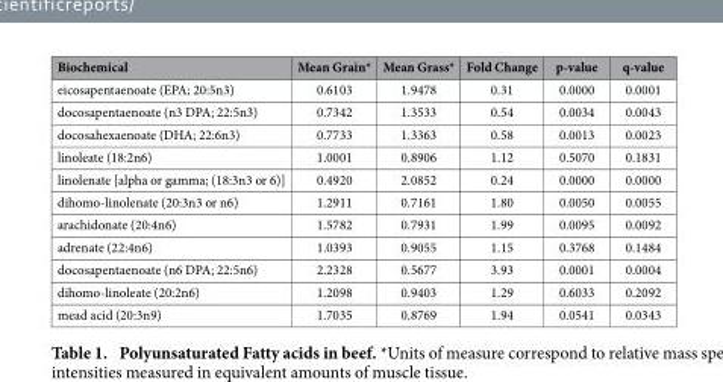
<table><thead><tr><td>Biochemical</td><td>Mean Grain*</td><td>Mean Grass*</td><td>Fold Change</td><td>p-value</td><td>q-value</td></tr></thead><tbody><tr><td>eicosapentaenoate (EPA; 20:5n3)</td><td>0.6103</td><td>1.9478</td><td>0.31</td><td>0.0000</td><td>0.0001</td></tr><tr><td>docosapentaenoate (n3 DPA; 22:5n3)</td><td>0.7342</td><td>1.3533</td><td>0.54</td><td>0.0034</td><td>0.0043</td></tr><tr><td>docosahexaenoate (DHA; 22:6n3)</td><td>0.7733</td><td>1.3363</td><td>0.58</td><td>0.0013</td><td>0.0023</td></tr><tr><td>linoleate (18:2n6)</td><td>1.0001</td><td>0.8906</td><td>1.12</td><td>0.5070</td><td>0.1831</td></tr><tr><td>linolenate [alpha or gamma; (18:3n3 or 6)]</td><td>0.4920</td><td>2.0852</td><td>0.24</td><td>0.0000</td><td>0.0000</td></tr><tr><td>dihomo-linolenate (20:3n3 or n6)</td><td>1.2911</td><td>0.7161</td><td>1.80</td><td>0.0050</td><td>0.0055</td></tr><tr><td>arachidonate (20:4n6)</td><td>1.5782</td><td>0.7931</td><td>1.99</td><td>0.0095</td><td>0.0092</td></tr><tr><td>adrenate (22:4n6)</td><td>1.0393</td><td>0.9055</td><td>1.15</td><td>0.3768</td><td>0.1484</td></tr><tr><td>docosapentaenoate (n6 DPA; 22:5n6)</td><td>2.2328</td><td>0.5677</td><td>3.93</td><td>0.0001</td><td>0.0004</td></tr><tr><td>dihomo-linoleate (20:2n6)</td><td>1.2098</td><td>0.9403</td><td>1.29</td><td>0.6033</td><td>0.2092</td></tr><tr><td>mead acid (20:3n9)</td><td>1.7035</td><td>0.8769</td><td>1.94</td><td>0.0541</td><td>0.0343</td></tr></tbody></table>